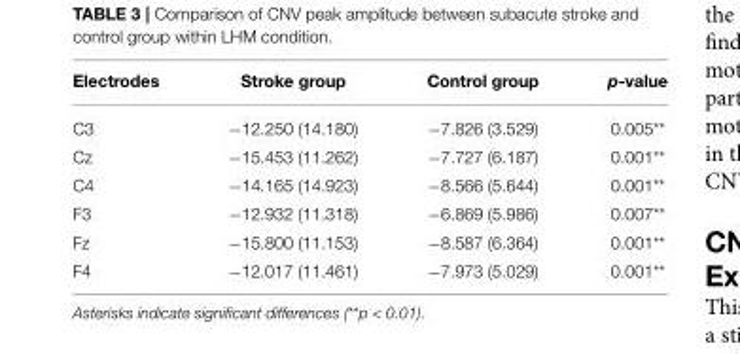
<table><thead><tr><td>Electrodes</td><td>Stroke group</td><td>Control group</td><td>p-value</td></tr></thead><tbody><tr><td>C3</td><td>−12.250 (14.180)</td><td>−7.826 (3.529)</td><td>0.005**</td></tr><tr><td>Cz</td><td>−15.453 (11.262)</td><td>−7.727 (6.187)</td><td>0.001**</td></tr><tr><td>C4</td><td>−14.165 (14.923)</td><td>−8.566 (5.644)</td><td>0.001**</td></tr><tr><td>F3</td><td>−12.932 (11.318)</td><td>−6.869 (5.986)</td><td>0.007**</td></tr><tr><td>Fz</td><td>−15.800 (11.153)</td><td>−8.587 (6.364)</td><td>0.001**</td></tr><tr><td>F4</td><td>−12.017 (11.461)</td><td>−7.973 (5.029)</td><td>0.001**</td></tr></tbody></table>